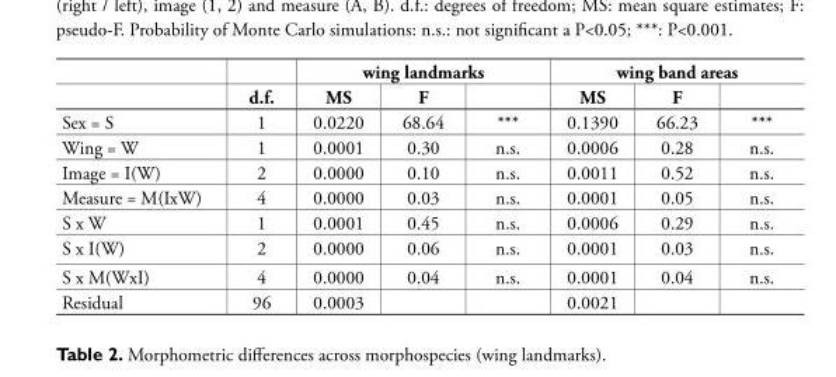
<table><thead><tr><td rowspan="2"></td><td rowspan="2">d.f.</td><td colspan="3">wing landmarks</td><td colspan="3">wing band areas</td></tr><tr><td>MS</td><td>F</td><td></td><td>MS</td><td>F</td><td></td></tr></thead><tbody><tr><td>Sex = S</td><td>1</td><td>0.0220</td><td>68.64</td><td>***</td><td>0.1390</td><td>66.23</td><td>***</td></tr><tr><td>Wing = W</td><td>1</td><td>0.0001</td><td>0.30</td><td>n.s.</td><td>0.0006</td><td>0.28</td><td>n.s.</td></tr><tr><td>Image = I(W)</td><td>2</td><td>0.0000</td><td>0.10</td><td>n.s.</td><td>0.0011</td><td>0.52</td><td>n.s.</td></tr><tr><td>Measure = M(IxW)</td><td>4</td><td>0.0000</td><td>0.03</td><td>n.s.</td><td>0.0001</td><td>0.05</td><td>n.s.</td></tr><tr><td>S x W</td><td>1</td><td>0.0001</td><td>0.45</td><td>n.s.</td><td>0.0006</td><td>0.29</td><td>n.s.</td></tr><tr><td>S x I(W)</td><td>2</td><td>0.0000</td><td>0.06</td><td>n.s.</td><td>0.0001</td><td>0.03</td><td>n.s.</td></tr><tr><td>S x M(WxI)</td><td>4</td><td>0.0000</td><td>0.04</td><td>n.s.</td><td>0.0001</td><td>0.04</td><td>n.s.</td></tr><tr><td>Residual</td><td>96</td><td>0.0003</td><td></td><td></td><td>0.0021</td><td></td><td></td></tr></tbody></table>